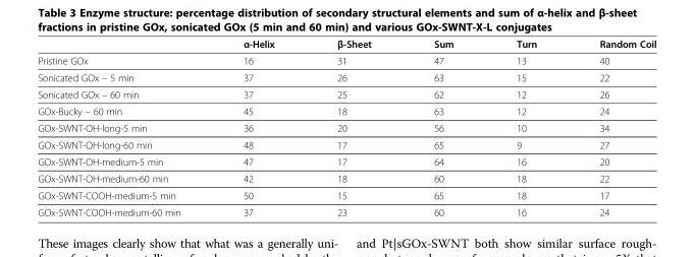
<table><thead><tr><td></td><td>α-Helix</td><td>β-Sheet</td><td>Sum</td><td>Turn</td><td>Random Coil</td></tr></thead><tbody><tr><td>Pristine GOx</td><td>16</td><td>31</td><td>47</td><td>13</td><td>40</td></tr><tr><td>Sonicated GOx – 5 min</td><td>37</td><td>26</td><td>63</td><td>15</td><td>22</td></tr><tr><td>Sonicated GOx – 60 min</td><td>37</td><td>25</td><td>62</td><td>12</td><td>26</td></tr><tr><td>GOx-Bucky – 60 min</td><td>45</td><td>18</td><td>63</td><td>12</td><td>24</td></tr><tr><td>GOx-SWNT-OH-long-5 min</td><td>36</td><td>20</td><td>56</td><td>10</td><td>34</td></tr><tr><td>GOx-SWNT-OH-long-60 min</td><td>48</td><td>17</td><td>65</td><td>9</td><td>27</td></tr><tr><td>GOx-SWNT-OH-medium-5 min</td><td>47</td><td>17</td><td>64</td><td>16</td><td>20</td></tr><tr><td>GOx-SWNT-OH-medium-60 min</td><td>42</td><td>18</td><td>60</td><td>18</td><td>22</td></tr><tr><td>GOx-SWNT-COOH-medium-5 min</td><td>50</td><td>15</td><td>65</td><td>18</td><td>17</td></tr><tr><td>GOx-SWNT-COOH-medium-60 min</td><td>37</td><td>23</td><td>60</td><td>16</td><td>24</td></tr></tbody></table>